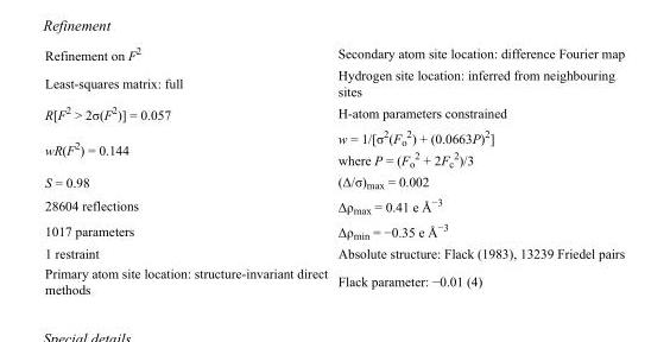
<table><tbody><tr><td>Refinement on F<sup>2</sup></td><td>Secondary atom site location: difference Fourier map</td></tr><tr><td>Least-squares matrix: full</td><td>Hydrogen site location: inferred from neighbouring sites</td></tr><tr><td>R[F<sup>2</sup> &gt; 2σ(F<sup>2</sup>)] = 0.057</td><td>H-atom parameters constrained</td></tr><tr><td>wR(F<sup>2</sup>) = 0.144</td><td>w = 1/[σ<sup>2</sup>(F<sub>o</sub> <sup>2</sup>) + (0.0663P)<sup>2</sup>] where P = (F<sub>o</sub> <sup>2</sup> + 2F<sub>c</sub> <sup>2</sup>)/3</td></tr><tr><td>S = 0.98</td><td>(Δ/σ)<sub>max</sub> = 0.002</td></tr><tr><td>28604 reflections</td><td>Δρ<sub>max</sub> = 0.41 e Å<sup>−3</sup></td></tr><tr><td>1017 parameters</td><td>Δρ<sub>min</sub> = −0.35 e Å<sup>−3</sup></td></tr><tr><td>1 restraint</td><td>Absolute structure: Flack (1983), 13239 Friedel pairs</td></tr><tr><td>Primary atom site location: structure-invariant direct methods</td><td>Flack parameter: −0.01 (4)</td></tr></tbody></table>